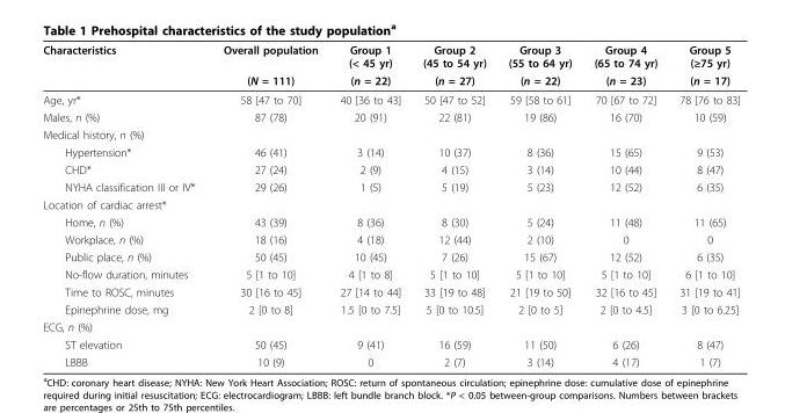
<table><thead><tr><td rowspan="2">Characteristics</td><td rowspan="2">Overall population (N = 111)</td><td rowspan="2">Group 1 (&lt; 45 yr) (n = 22)</td><td rowspan="2">Group 2 (45 to 54 yr) (n = 27)</td><td rowspan="2">Group 3 (55 to 64 yr) (n = 22)</td><td rowspan="2">Group 4 (65 to 74 yr) (n = 23)</td><td rowspan="2">Group 5 (≥75 yr) (n = 17)</td></tr><tr></tr></thead><tbody><tr><td>Age, yr*</td><td>58 [47 to 70]</td><td>40 [36 to 43]</td><td>50 [47 to 52]</td><td>59 [58 to 61]</td><td>70 [67 to 72]</td><td>78 [76 to 83]</td></tr><tr><td>Males, n (%)</td><td>87 (78)</td><td>20 (91)</td><td>22 (81)</td><td>19 (86)</td><td>16 (70)</td><td>10 (59)</td></tr><tr><td colspan="7">Medical history, n (%)</td></tr><tr><td>Hypertension*</td><td>46 (41)</td><td>3 (14)</td><td>10 (37)</td><td>8 (36)</td><td>15 (65)</td><td>9 (53)</td></tr><tr><td>CHD*</td><td>27 (24)</td><td>2 (9)</td><td>4 (15)</td><td>3 (14)</td><td>10 (44)</td><td>8 (47)</td></tr><tr><td>NYHA classification III or IV*</td><td>29 (26)</td><td>1 (5)</td><td>5 (19)</td><td>5 (23)</td><td>12 (52)</td><td>6 (35)</td></tr><tr><td colspan="7">Location of cardiac arrest*</td></tr><tr><td>Home, n (%)</td><td>43 (39)</td><td>8 (36)</td><td>8 (30)</td><td>5 (24)</td><td>11 (48)</td><td>11 (65)</td></tr><tr><td>Workplace, n (%)</td><td>18 (16)</td><td>4 (18)</td><td>12 (44)</td><td>2 (10)</td><td>0</td><td>0</td></tr><tr><td>Public place, n (%)</td><td>50 (45)</td><td>10 (45)</td><td>7 (26)</td><td>15 (67)</td><td>12 (52)</td><td>6 (35)</td></tr><tr><td>No-flow duration, minutes</td><td>5 [1 to 10]</td><td>4 [1 to 8]</td><td>5 [1 to 10]</td><td>5 [1 to 10]</td><td>5 [1 to 10]</td><td>6 [1 to 10]</td></tr><tr><td>Time to ROSC, minutes</td><td>30 [16 to 45]</td><td>27 [14 to 44]</td><td>33 [19 to 48]</td><td>21 [19 to 50]</td><td>32 [16 to 45]</td><td>31 [19 to 41]</td></tr><tr><td>Epinephrine dose, mg</td><td>2 [0 to 8]</td><td>1.5 [0 to 7.5]</td><td>5 [0 to 10.5]</td><td>2 [0 to 5]</td><td>2 [0 to 4.5]</td><td>3 [0 to 6.25]</td></tr><tr><td colspan="7">ECG, n (%)</td></tr><tr><td>ST elevation</td><td>50 (45)</td><td>9 (41)</td><td>16 (59)</td><td>11 (50)</td><td>6 (26)</td><td>8 (47)</td></tr><tr><td>LBBB</td><td>10 (9)</td><td>0</td><td>2 (7)</td><td>3 (14)</td><td>4 (17)</td><td>1 (7)</td></tr></tbody></table>